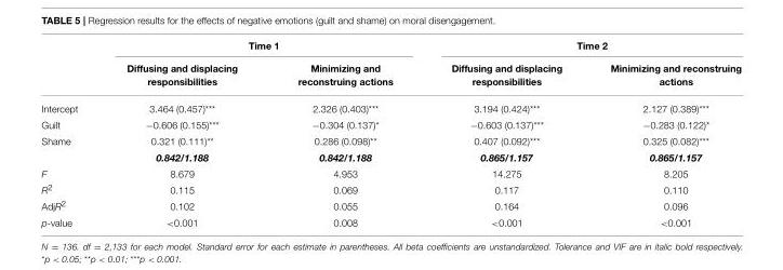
<table><thead><tr><td rowspan="2"></td><td colspan="2">Time 1</td><td colspan="2">Time 2</td></tr><tr><td>Diffusing and displacing responsibilities</td><td>Minimizing and reconstruing actions</td><td>Diffusing and displacing responsibilities</td><td>Minimizing and reconstruing actions</td></tr></thead><tbody><tr><td>Intercept</td><td>3.464 (0.457)***</td><td>2.326 (0.403)***</td><td>3.194 (0.424)***</td><td>2.127 (0.389)***</td></tr><tr><td>Guilt</td><td>−0.606 (0.155)***</td><td>−0.304 (0.137)*</td><td>−0.603 (0.137)***</td><td>−0.283 (0.122)*</td></tr><tr><td rowspan="2">Shame</td><td>0.321 (0.111)**</td><td>0.286 (0.098)**</td><td>0.407 (0.092)***</td><td>0.325 (0.082)***</td></tr><tr><td>0.842/1.188</td><td>0.842/1.188</td><td>0.865/1.157</td><td>0.865/1.157</td></tr><tr><td>F</td><td>8.679</td><td>4.953</td><td>14.275</td><td>8.205</td></tr><tr><td>R<sup>2</sup></td><td>0.115</td><td>0.069</td><td>0.117</td><td>0.110</td></tr><tr><td>AdjR<sup>2</sup></td><td>0.102</td><td>0.055</td><td>0.164</td><td>0.096</td></tr><tr><td>p-value</td><td>&lt;0.001</td><td>0.008</td><td>&lt;0.001</td><td>&lt;0.001</td></tr></tbody></table>